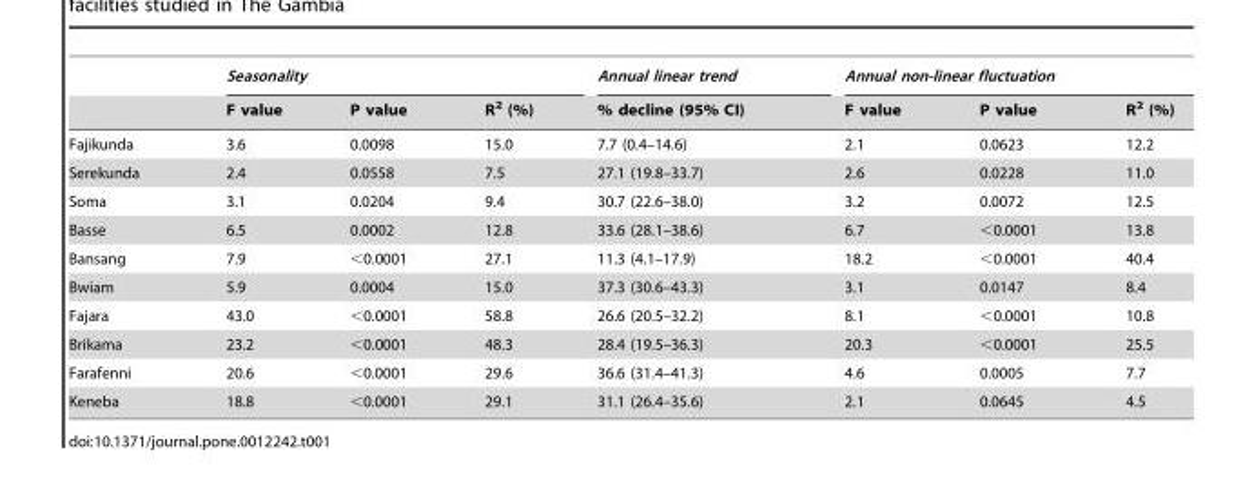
<table><thead><tr><td rowspan="2"></td><td colspan="3">Seasonality</td><td rowspan="2">Annual linear trend % decline (95% CI)</td><td colspan="3">Annual non-linear fluctuation</td></tr><tr><td>F value</td><td>P value</td><td>R<sup>2</sup> (%)</td><td>F value</td><td>P value</td><td>R<sup>2</sup> (%)</td></tr></thead><tbody><tr><td>Fajikunda</td><td>3.6</td><td>0.0098</td><td>15.0</td><td>7.7 (0.4–14.6)</td><td>2.1</td><td>0.0623</td><td>12.2</td></tr><tr><td>Serekunda</td><td>2.4</td><td>0.0558</td><td>7.5</td><td>27.1 (19.8–33.7)</td><td>2.6</td><td>0.0228</td><td>11.0</td></tr><tr><td>Soma</td><td>3.1</td><td>0.0204</td><td>9.4</td><td>30.7 (22.6–38.0)</td><td>3.2</td><td>0.0072</td><td>12.5</td></tr><tr><td>Basse</td><td>6.5</td><td>0.0002</td><td>12.8</td><td>33.6 (28.1–38.6)</td><td>6.7</td><td>&lt;0.0001</td><td>13.8</td></tr><tr><td>Bansang</td><td>7.9</td><td>&lt;0.0001</td><td>27.1</td><td>11.3 (4.1–17.9)</td><td>18.2</td><td>&lt;0.0001</td><td>40.4</td></tr><tr><td>Bwiam</td><td>5.9</td><td>0.0004</td><td>15.0</td><td>37.3 (30.6–43.3)</td><td>3.1</td><td>0.0147</td><td>8.4</td></tr><tr><td>Fajara</td><td>43.0</td><td>&lt;0.0001</td><td>58.8</td><td>26.6 (20.5–32.2)</td><td>8.1</td><td>&lt;0.0001</td><td>10.8</td></tr><tr><td>Brikama</td><td>23.2</td><td>&lt;0.0001</td><td>48.3</td><td>28.4 (19.5–36.3)</td><td>20.3</td><td>&lt;0.0001</td><td>25.5</td></tr><tr><td>Farafenni</td><td>20.6</td><td>&lt;0.0001</td><td>29.6</td><td>36.6 (31.4–41.3)</td><td>4.6</td><td>0.0005</td><td>7.7</td></tr><tr><td>Keneba</td><td>18.8</td><td>&lt;0.0001</td><td>29.1</td><td>31.1 (26.4–35.6)</td><td>2.1</td><td>0.0645</td><td>4.5</td></tr></tbody></table>